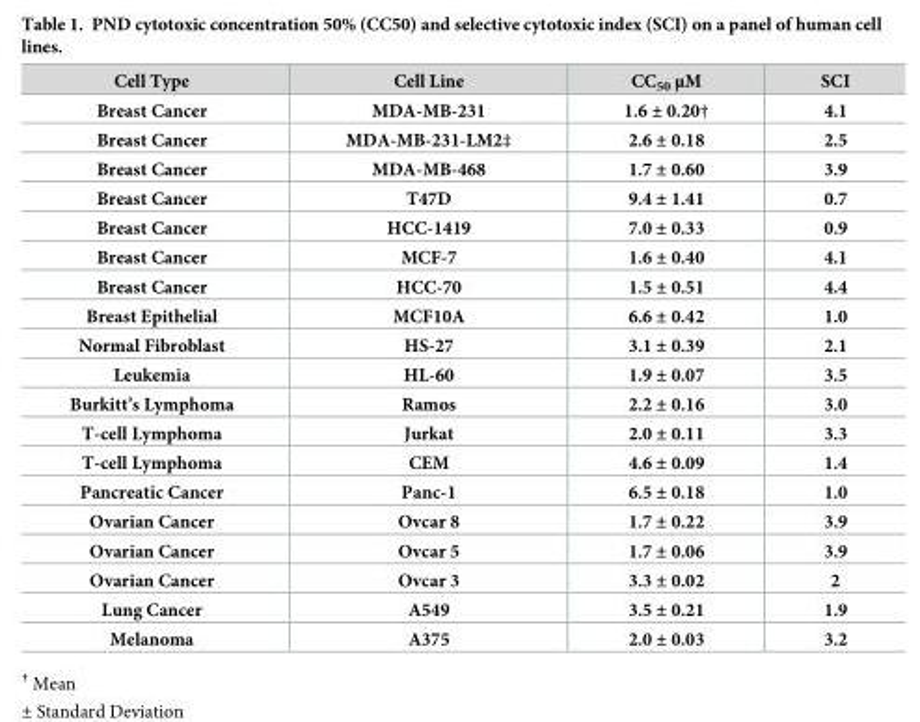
<table><thead><tr><td>Cell Type</td><td>Cell Line</td><td>CC<sub>50</sub> μM</td><td>SCI</td></tr></thead><tbody><tr><td>Breast Cancer</td><td>MDA-MB-231</td><td>1.6 ± 0.20†</td><td>4.1</td></tr><tr><td>Breast Cancer</td><td>MDA-MB-231-LM2‡</td><td>2.6 ± 0.18</td><td>2.5</td></tr><tr><td>Breast Cancer</td><td>MDA-MB-468</td><td>1.7 ± 0.60</td><td>3.9</td></tr><tr><td>Breast Cancer</td><td>T47D</td><td>9.4 ± 1.41</td><td>0.7</td></tr><tr><td>Breast Cancer</td><td>HCC-1419</td><td>7.0 ± 0.33</td><td>0.9</td></tr><tr><td>Breast Cancer</td><td>MCF-7</td><td>1.6 ± 0.40</td><td>4.1</td></tr><tr><td>Breast Cancer</td><td>HCC-70</td><td>1.5 ± 0.51</td><td>4.4</td></tr><tr><td>Breast Epithelial</td><td>MCF10A</td><td>6.6 ± 0.42</td><td>1.0</td></tr><tr><td>Normal Fibroblast</td><td>HS-27</td><td>3.1 ± 0.39</td><td>2.1</td></tr><tr><td>Leukemia</td><td>HL-60</td><td>1.9 ± 0.07</td><td>3.5</td></tr><tr><td>Burkitt’s Lymphoma</td><td>Ramos</td><td>2.2 ± 0.16</td><td>3.0</td></tr><tr><td>T-cell Lymphoma</td><td>Jurkat</td><td>2.0 ± 0.11</td><td>3.3</td></tr><tr><td>T-cell Lymphoma</td><td>CEM</td><td>4.6 ± 0.09</td><td>1.4</td></tr><tr><td>Pancreatic Cancer</td><td>Panc-1</td><td>6.5 ± 0.18</td><td>1.0</td></tr><tr><td>Ovarian Cancer</td><td>Ovcar 8</td><td>1.7 ± 0.22</td><td>3.9</td></tr><tr><td>Ovarian Cancer</td><td>Ovcar 5</td><td>1.7 ± 0.06</td><td>3.9</td></tr><tr><td>Ovarian Cancer</td><td>Ovcar 3</td><td>3.3 ± 0.02</td><td>2</td></tr><tr><td>Lung Cancer</td><td>A549</td><td>3.5 ± 0.21</td><td>1.9</td></tr><tr><td>Melanoma</td><td>A375</td><td>2.0 ± 0.03</td><td>3.2</td></tr></tbody></table>